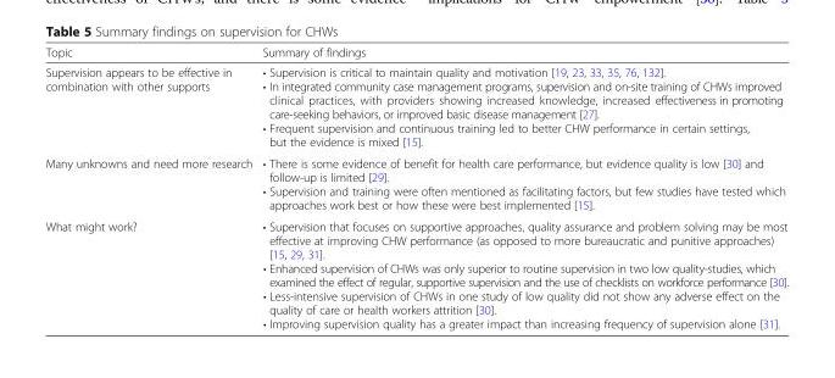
<table><thead><tr><td>Topic</td><td>Summary of findings</td></tr></thead><tbody><tr><td>Supervision appears to be effective in combination with other supports</td><td>• Supervision is critical to maintain quality and motivation [19, 23, 33, 35, 76, 132]. • In integrated community case management programs, supervision and on-site training of CHWs improved clinical practices, with providers showing increased knowledge, increased effectiveness in promoting care-seeking behaviors, or improved basic disease management [27]. • Frequent supervision and continuous training led to better CHW performance in certain settings, but the evidence is mixed [15].</td></tr><tr><td>Many unknowns and need more research</td><td>• There is some evidence of benefit for health care performance, but evidence quality is low [30] and follow-up is limited [29]. • Supervision and training were often mentioned as facilitating factors, but few studies have tested which approaches work best or how these were best implemented [15].</td></tr><tr><td>What might work?</td><td>• Supervision that focuses on supportive approaches, quality assurance and problem solving may be most effective at improving CHW performance (as opposed to more bureaucratic and punitive approaches) [15, 29, 31]. • Enhanced supervision of CHWs was only superior to routine supervision in two low quality-studies, which examined the effect of regular, supportive supervision and the use of checklists on workforce performance [30]. • Less-intensive supervision of CHWs in one study of low quality did not show any adverse effect on the quality of care or health workers attrition [30]. • Improving supervision quality has a greater impact than increasing frequency of supervision alone [31].</td></tr></tbody></table>